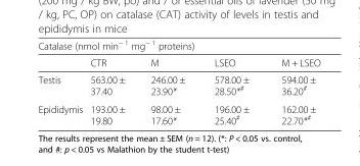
<table><thead><tr><td colspan="5">Catalase (nmol min<sup>− 1</sup> mg<sup>− 1</sup> proteins)</td></tr><tr><td></td><td>CTR</td><td>M</td><td>LSEO</td><td>M + LSEO</td></tr></thead><tbody><tr><td>Testis</td><td>563.00 ± 37.40</td><td>246.00 ± 23.90*</td><td>578.00 ± 28.50*<sup>#</sup></td><td>594.00 ± 36.20<sup>#</sup></td></tr><tr><td>Epididymis</td><td>193.00 ± 19.80</td><td>98.00 ± 17.60*</td><td>196.00 ± 25.40<sup>#</sup></td><td>162.00 ± 22.70*<sup>#</sup></td></tr></tbody></table>